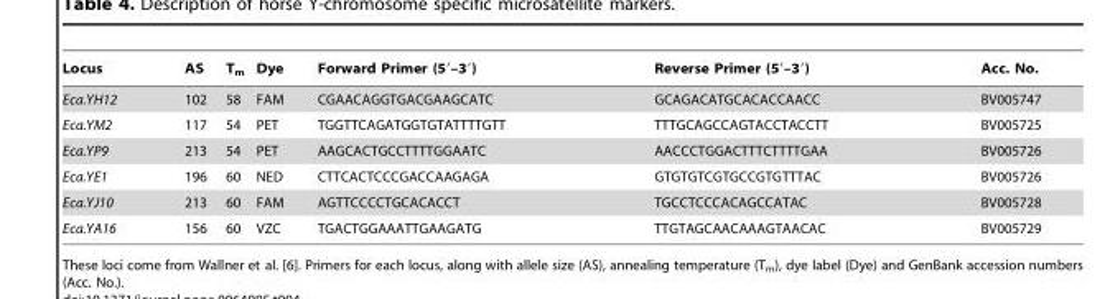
<table><thead><tr><td>Locus</td><td>AS</td><td>T<sub>m</sub></td><td>Dye</td><td>Forward Primer (5′–3′)</td><td>Reverse Primer (5′–3′)</td><td>Acc. No.</td></tr></thead><tbody><tr><td>Eca.YH12</td><td>102</td><td>58</td><td>FAM</td><td>CGAACAGGTGACGAAGCATC</td><td>GCAGACATGCACACCAACC</td><td>BV005747</td></tr><tr><td>Eca.YM2</td><td>117</td><td>54</td><td>PET</td><td>TGGTTCAGATGGTGTATTTTGTT</td><td>TTTGCAGCCAGTACCTACCTT</td><td>BV005725</td></tr><tr><td>Eca.YP9</td><td>213</td><td>54</td><td>PET</td><td>AAGCACTGCCTTTTGGAATC</td><td>AACCCTGGACTTTCTTTTGAA</td><td>BV005726</td></tr><tr><td>Eca.YE1</td><td>196</td><td>60</td><td>NED</td><td>CTTCACTCCCGACCAAGAGA</td><td>GTGTGTCGTGCCGTGTTTAC</td><td>BV005726</td></tr><tr><td>Eca.YJ10</td><td>213</td><td>60</td><td>FAM</td><td>AGTTCCCCTGCACACCT</td><td>TGCCTCCCACAGCCATAC</td><td>BV005728</td></tr><tr><td>Eca.YA16</td><td>156</td><td>60</td><td>VZC</td><td>TGACTGGAAATTGAAGATG</td><td>TTGTAGCAACAAAGTAACAC</td><td>BV005729</td></tr></tbody></table>